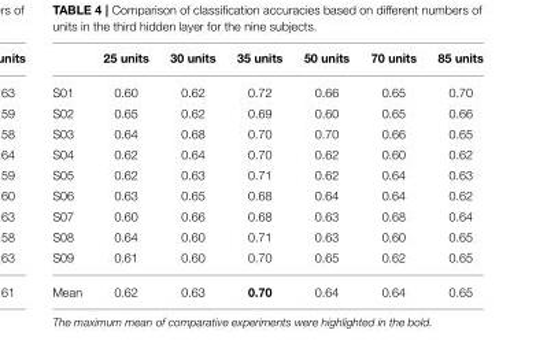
<table><thead><tr><td></td><td>25 units</td><td>30 units</td><td>35 units</td><td>50 units</td><td>70 units</td><td>85 units</td></tr></thead><tbody><tr><td>S01</td><td>0.60</td><td>0.62</td><td>0.72</td><td>0.66</td><td>0.65</td><td>0.70</td></tr><tr><td>S02</td><td>0.65</td><td>0.62</td><td>0.69</td><td>0.60</td><td>0.65</td><td>0.66</td></tr><tr><td>S03</td><td>0.64</td><td>0.68</td><td>0.70</td><td>0.70</td><td>0.66</td><td>0.65</td></tr><tr><td>S04</td><td>0.62</td><td>0.64</td><td>0.70</td><td>0.62</td><td>0.60</td><td>0.62</td></tr><tr><td>S05</td><td>0.62</td><td>0.63</td><td>0.71</td><td>0.62</td><td>0.64</td><td>0.63</td></tr><tr><td>S06</td><td>0.63</td><td>0.65</td><td>0.68</td><td>0.64</td><td>0.64</td><td>0.62</td></tr><tr><td>S07</td><td>0.60</td><td>0.66</td><td>0.68</td><td>0.63</td><td>0.68</td><td>0.64</td></tr><tr><td>S08</td><td>0.64</td><td>0.60</td><td>0.71</td><td>0.63</td><td>0.60</td><td>0.65</td></tr><tr><td>S09</td><td>0.61</td><td>0.60</td><td>0.70</td><td>0.65</td><td>0.62</td><td>0.65</td></tr><tr><td>Mean</td><td>0.62</td><td>0.63</td><td>0.70</td><td>0.64</td><td>0.64</td><td>0.65</td></tr></tbody></table>